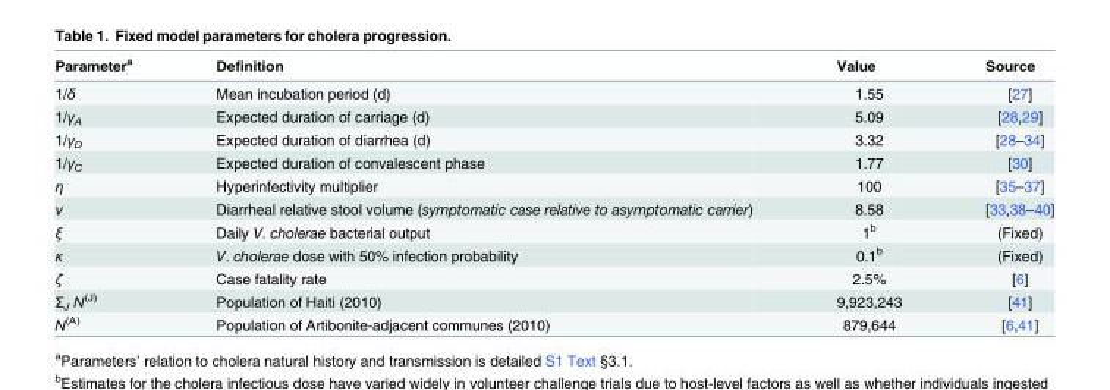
<table><thead><tr><td>Parameter<sup>a</sup></td><td>Definition</td><td>Value</td><td>Source</td></tr></thead><tbody><tr><td>1/δ</td><td>Mean incubation period (d)</td><td>1.55</td><td>[27]</td></tr><tr><td>1/γ<sub>A</sub></td><td>Expected duration of carriage (d)</td><td>5.09</td><td>[28,29]</td></tr><tr><td>1/γ<sub>D</sub></td><td>Expected duration of diarrhea (d)</td><td>3.32</td><td>[28–34]</td></tr><tr><td>1/γ<sub>C</sub></td><td>Expected duration of convalescent phase</td><td>1.77</td><td>[30]</td></tr><tr><td>η</td><td>Hyperinfectivity multiplier</td><td>100</td><td>[35–37]</td></tr><tr><td>ν</td><td>Diarrheal relative stool volume (symptomatic case relative to asymptomatic carrier)</td><td>8.58</td><td>[33,38–40]</td></tr><tr><td>ξ</td><td>Daily V. cholerae bacterial output</td><td>1<sup>b</sup></td><td>(Fixed)</td></tr><tr><td>κ</td><td>V. cholerae dose with 50% infection probability</td><td>0.1<sup>b</sup></td><td>(Fixed)</td></tr><tr><td>ζ</td><td>Case fatality rate</td><td>2.5%</td><td>[6]</td></tr><tr><td>Σ<sub>J</sub> N<sup>(J)</sup></td><td>Population of Haiti (2010)</td><td>9,923,243</td><td>[41]</td></tr><tr><td>N<sup>(A)</sup></td><td>Population of Artibonite-adjacent communes (2010)</td><td>879,644</td><td>[6,41]</td></tr></tbody></table>